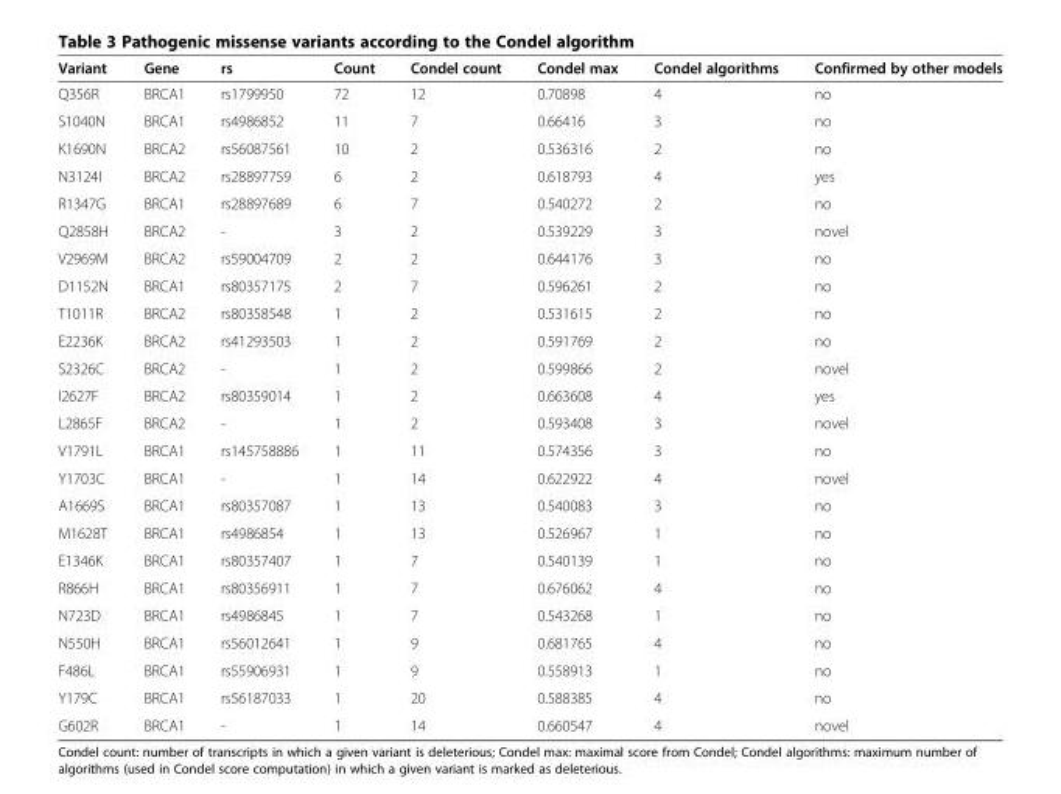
<table><thead><tr><td>Variant</td><td>Gene</td><td>rs</td><td>Count</td><td>Condel count</td><td>Condel max</td><td>Condel algorithms</td><td>Confirmed by other models</td></tr></thead><tbody><tr><td>Q356R</td><td>BRCA1</td><td>rs1799950</td><td>72</td><td>12</td><td>0.70898</td><td>4</td><td>no</td></tr><tr><td>S1040N</td><td>BRCA1</td><td>rs4986852</td><td>11</td><td>7</td><td>0.66416</td><td>3</td><td>no</td></tr><tr><td>K1690N</td><td>BRCA2</td><td>rs56087561</td><td>10</td><td>2</td><td>0.536316</td><td>2</td><td>no</td></tr><tr><td>N3124I</td><td>BRCA2</td><td>rs28897759</td><td>6</td><td>2</td><td>0.618793</td><td>4</td><td>yes</td></tr><tr><td>R1347G</td><td>BRCA1</td><td>rs28897689</td><td>6</td><td>7</td><td>0.540272</td><td>2</td><td>no</td></tr><tr><td>Q2858H</td><td>BRCA2</td><td>-</td><td>3</td><td>2</td><td>0.539229</td><td>3</td><td>novel</td></tr><tr><td>V2969M</td><td>BRCA2</td><td>rs59004709</td><td>2</td><td>2</td><td>0.644176</td><td>3</td><td>no</td></tr><tr><td>D1152N</td><td>BRCA1</td><td>rs80357175</td><td>2</td><td>7</td><td>0.596261</td><td>2</td><td>no</td></tr><tr><td>T1011R</td><td>BRCA2</td><td>rs80358548</td><td>1</td><td>2</td><td>0.531615</td><td>2</td><td>no</td></tr><tr><td>E2236K</td><td>BRCA2</td><td>rs41293503</td><td>1</td><td>2</td><td>0.591769</td><td>2</td><td>no</td></tr><tr><td>S2326C</td><td>BRCA2</td><td>-</td><td>1</td><td>2</td><td>0.599866</td><td>2</td><td>novel</td></tr><tr><td>I2627F</td><td>BRCA2</td><td>rs80359014</td><td>1</td><td>2</td><td>0.663608</td><td>4</td><td>yes</td></tr><tr><td>L2865F</td><td>BRCA2</td><td>-</td><td>1</td><td>2</td><td>0.593408</td><td>3</td><td>novel</td></tr><tr><td>V1791L</td><td>BRCA1</td><td>rs145758886</td><td>1</td><td>11</td><td>0.574356</td><td>3</td><td>no</td></tr><tr><td>Y1703C</td><td>BRCA1</td><td>-</td><td>1</td><td>14</td><td>0.622922</td><td>4</td><td>novel</td></tr><tr><td>A1669S</td><td>BRCA1</td><td>rs80357087</td><td>1</td><td>13</td><td>0.540083</td><td>3</td><td>no</td></tr><tr><td>M1628T</td><td>BRCA1</td><td>rs4986854</td><td>1</td><td>13</td><td>0.526967</td><td>1</td><td>no</td></tr><tr><td>E1346K</td><td>BRCA1</td><td>rs80357407</td><td>1</td><td>7</td><td>0.540139</td><td>1</td><td>no</td></tr><tr><td>R866H</td><td>BRCA1</td><td>rs80356911</td><td>1</td><td>7</td><td>0.676062</td><td>4</td><td>no</td></tr><tr><td>N723D</td><td>BRCA1</td><td>rs4986845</td><td>1</td><td>7</td><td>0.543268</td><td>1</td><td>no</td></tr><tr><td>N550H</td><td>BRCA1</td><td>rs56012641</td><td>1</td><td>9</td><td>0.681765</td><td>4</td><td>no</td></tr><tr><td>F486L</td><td>BRCA1</td><td>rs55906931</td><td>1</td><td>9</td><td>0.558913</td><td>1</td><td>no</td></tr><tr><td>Y179C</td><td>BRCA1</td><td>rs56187033</td><td>1</td><td>20</td><td>0.588385</td><td>4</td><td>no</td></tr><tr><td>G602R</td><td>BRCA1</td><td>-</td><td>1</td><td>14</td><td>0.660547</td><td>4</td><td>novel</td></tr></tbody></table>